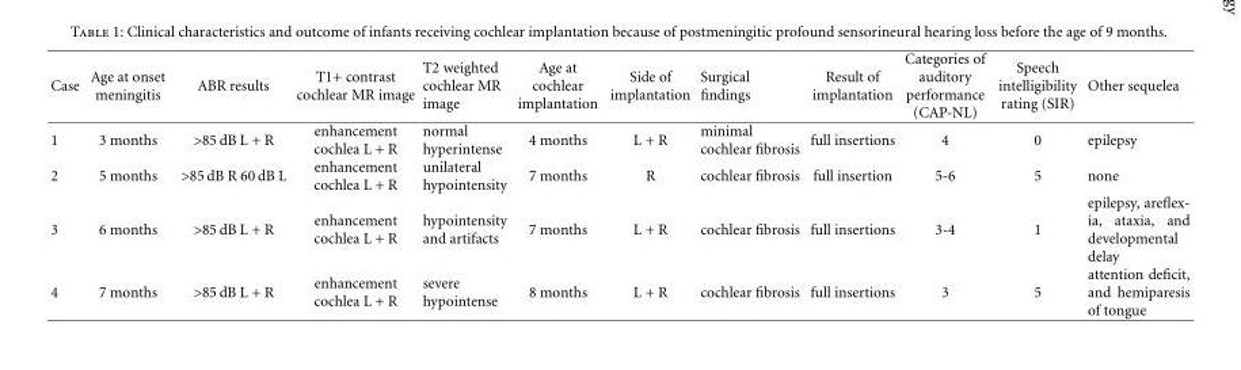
<table><thead><tr><td>Case</td><td>Age at onset meningitis</td><td>ABR results</td><td>T1+ contrast cochlear MR image</td><td>T2 weighted cochlear MR image</td><td>Age at cochlear implantation</td><td>Side of implantation</td><td>Surgical findings</td><td>Result of implantation</td><td>Categories of auditory performance (CAP-NL)</td><td>Speech intelligibility rating (SIR)</td><td>Other sequelea</td></tr></thead><tbody><tr><td>1</td><td>3 months</td><td>&gt;85 dB L + R</td><td>enhancement cochlea L + R</td><td>normal hyperintense</td><td>4 months</td><td>L + R</td><td>minimal cochlear fibrosis</td><td>full insertions</td><td>4</td><td>0</td><td>epilepsy</td></tr><tr><td>2</td><td>5 months</td><td>&gt;85 dB R 60 dB L</td><td>enhancement cochlea L + R</td><td>unilateral hypointensity</td><td>7 months</td><td>R</td><td>cochlear fibrosis</td><td>full insertion</td><td>5-6</td><td>5</td><td>none</td></tr><tr><td>3</td><td>6 months</td><td>&gt;85 dB L + R</td><td>enhancement cochlea L + R</td><td>hypointensity and artifacts</td><td>7 months</td><td>L + R</td><td>cochlear fibrosis</td><td>full insertions</td><td>3-4</td><td>1</td><td>epilepsy, areflex- ia, ataxia, and developmental delay</td></tr><tr><td>4</td><td>7 months</td><td>&gt;85 dB L + R</td><td>enhancement cochlea L + R</td><td>severe hypointense</td><td>8 months</td><td>L + R</td><td>cochlear fibrosis</td><td>full insertions</td><td>3</td><td>5</td><td>attention deficit, and hemiparesis of tongue</td></tr></tbody></table>